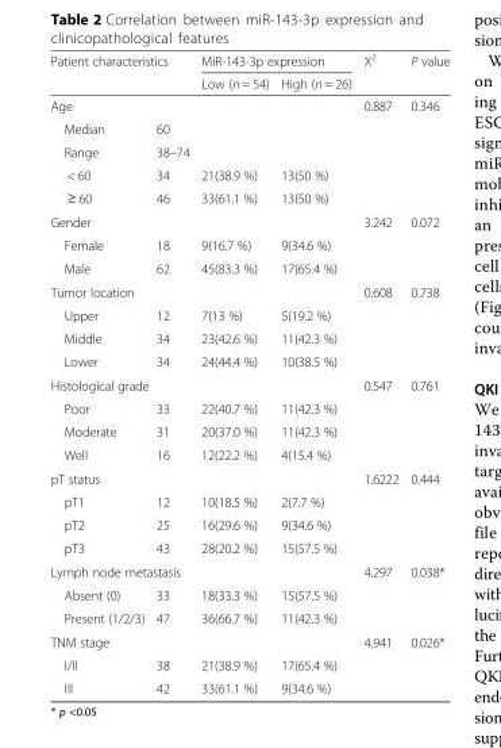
<table><thead><tr><td rowspan="3" colspan="2">Patient characteristics Age</td><td colspan="2">MiR-143-3p expression</td><td rowspan="4">X2 0.887</td><td rowspan="4">P value 0.346</td></tr><tr><td rowspan="3">Low (n = 54)</td><td rowspan="3">High (n = 26)</td></tr><tr></tr><tr><td>Median</td><td>60</td></tr></thead><tbody><tr><td>Range</td><td>38–74</td><td></td><td></td><td></td><td></td></tr><tr><td>&lt; 60</td><td>34</td><td>21(38.9 %)</td><td>13(50 %)</td><td></td><td></td></tr><tr><td>≥ 60</td><td>46</td><td>33(61.1 %)</td><td>13(50 %)</td><td></td><td></td></tr><tr><td colspan="2">Gender</td><td></td><td></td><td>3.242</td><td>0.072</td></tr><tr><td>Female</td><td>18</td><td>9(16.7 %)</td><td>9(34.6 %)</td><td></td><td></td></tr><tr><td>Male</td><td>62</td><td>45(83.3 %)</td><td>17(65.4 %)</td><td></td><td></td></tr><tr><td colspan="2">Tumor location</td><td></td><td></td><td>0.608</td><td>0.738</td></tr><tr><td>Upper</td><td>12</td><td>7(13 %)</td><td>5(19.2 %)</td><td></td><td></td></tr><tr><td>Middle</td><td>34</td><td>23(42.6 %)</td><td>11(42.3 %)</td><td></td><td></td></tr><tr><td>Lower</td><td>34</td><td>24(44.4 %)</td><td>10(38.5 %)</td><td></td><td></td></tr><tr><td colspan="2">Histological grade</td><td></td><td></td><td>0.547</td><td>0.761</td></tr><tr><td>Poor</td><td>33</td><td>22(40.7 %)</td><td>11(42.3 %)</td><td></td><td></td></tr><tr><td>Moderate</td><td>31</td><td>20(37.0 %)</td><td>11(42.3 %)</td><td></td><td></td></tr><tr><td>Well</td><td>16</td><td>12(22.2 %)</td><td>4(15.4 %)</td><td></td><td></td></tr><tr><td colspan="2">pT status</td><td></td><td></td><td>1.6222</td><td>0.444</td></tr><tr><td>pT1</td><td>12</td><td>10(18.5 %)</td><td>2(7.7 %)</td><td></td><td></td></tr><tr><td>pT2</td><td>25</td><td>16(29.6 %)</td><td>9(34.6 %)</td><td></td><td></td></tr><tr><td>pT3</td><td>43</td><td>28(20.2 %)</td><td>15(57.5 %)</td><td></td><td></td></tr><tr><td colspan="2">Lymph node metastasis</td><td></td><td></td><td>4.297</td><td>0.038*</td></tr><tr><td>Absent (0)</td><td>33</td><td>18(33.3 %)</td><td>15(57.5 %)</td><td></td><td></td></tr><tr><td>Present (1/2/3)</td><td>47</td><td>36(66.7 %)</td><td>11(42.3 %)</td><td></td><td></td></tr><tr><td colspan="2">TNM stage</td><td></td><td></td><td>4.941</td><td>0.026*</td></tr><tr><td>I/II</td><td>38</td><td>21(38.9 %)</td><td>17(65.4 %)</td><td></td><td></td></tr><tr><td>III</td><td>42</td><td>33(61.1 %)</td><td>9(34.6 %)</td><td></td><td></td></tr></tbody></table>